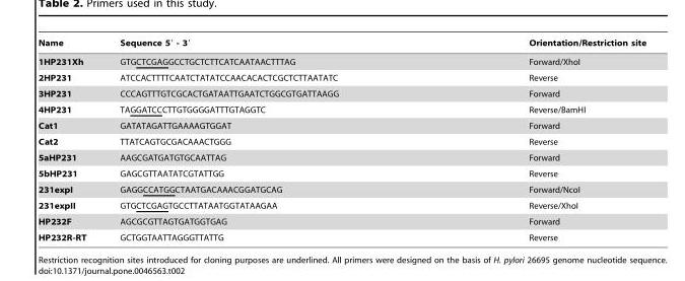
<table><thead><tr><td>Name</td><td>Sequence 5′ - 3′</td><td>Orientation/Restriction site</td></tr></thead><tbody><tr><td>1HP231Xh</td><td>GTGCTCGAGGCCTGCTCTTCATCAATAACTTTAG</td><td>Forward/XhoI</td></tr><tr><td>2HP231</td><td>ATCCACTTTTCAATCTATATCCAACACACTCGCTCTTAATATC</td><td>Reverse</td></tr><tr><td>3HP231</td><td>CCCAGTTTGTCGCACTGATAATTGAATCTGGCGTGATTAAGG</td><td>Forward</td></tr><tr><td>4HP231</td><td>TAGGATCCCTTGTGGGGATTTGTAGGTC</td><td>Reverse/BamHI</td></tr><tr><td>Cat1</td><td>GATATAGATTGAAAAGTGGAT</td><td>Forward</td></tr><tr><td>Cat2</td><td>TTATCAGTGCGACAAACTGGG</td><td>Reverse</td></tr><tr><td>5aHP231</td><td>AAGCGATGATGTGCAATTAG</td><td>Forward</td></tr><tr><td>5bHP231</td><td>GAGCGTTAATATCGTATTGG</td><td>Reverse</td></tr><tr><td>231expI</td><td>GAGGCCATGGCTAATGACAAACGGATGCAG</td><td>Forward/NcoI</td></tr><tr><td>231expII</td><td>GTGCTCGAGTGCCTTATAATGGTATAAGAA</td><td>Reverse/XhoI</td></tr><tr><td>HP232F</td><td>AGCGCGTTAGTGATGGTGAG</td><td>Forward</td></tr><tr><td>HP232R-RT</td><td>GCTGGTAATTAGGGTTATTG</td><td>Reverse</td></tr></tbody></table>